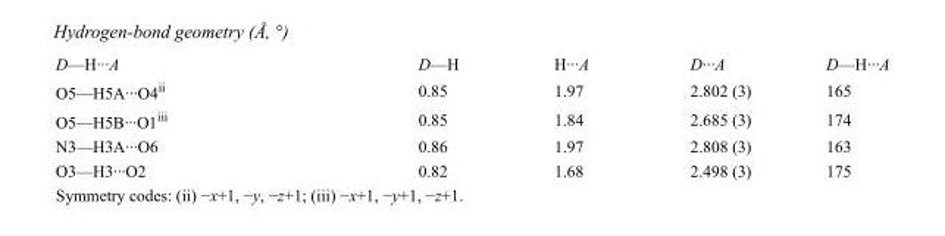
<table><tbody><tr><td>D—H···A</td><td>D—H</td><td>H···A</td><td>D···A</td><td>D—H···A</td></tr><tr><td>O5—H5A···O4<sup>ii</sup></td><td>0.85</td><td>1.97</td><td>2.802 (3)</td><td>165</td></tr><tr><td>O5—H5B···O1<sup>iii</sup></td><td>0.85</td><td>1.84</td><td>2.685 (3)</td><td>174</td></tr><tr><td>N3—H3A···O6</td><td>0.86</td><td>1.97</td><td>2.808 (3)</td><td>163</td></tr><tr><td>O3—H3···O2</td><td>0.82</td><td>1.68</td><td>2.498 (3)</td><td>175</td></tr></tbody></table>